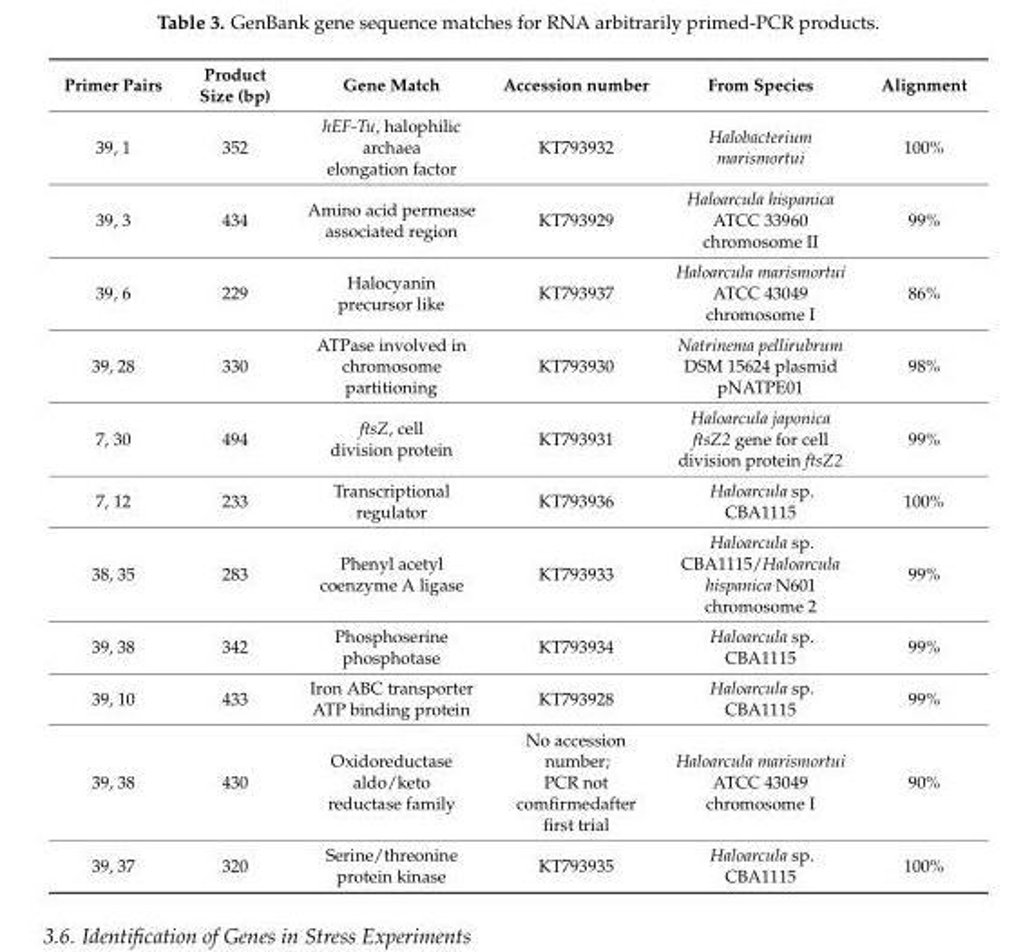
<table><thead><tr><td>Primer Pairs</td><td>Product Size (bp)</td><td>Gene Match</td><td>Accession number</td><td>From Species</td><td>Alignment</td></tr></thead><tbody><tr><td>39, 1</td><td>352</td><td>hEF-Tu, halophilic archaea elongation factor</td><td>KT793932</td><td>Halobacterium marismortui</td><td>100%</td></tr><tr><td>39, 3</td><td>434</td><td>Amino acid permease associated region</td><td>KT793929</td><td>Haloarcula hispanica ATCC 33960 chromosome II</td><td>99%</td></tr><tr><td>39, 6</td><td>229</td><td>Halocyanin precursor like</td><td>KT793937</td><td>Haloarcula marismortui ATCC 43049 chromosome I</td><td>86%</td></tr><tr><td>39, 28</td><td>330</td><td>ATPase involved in chromosome partitioning</td><td>KT793930</td><td>Natrinema pellirubrum DSM 15624 plasmid pNATPE01</td><td>98%</td></tr><tr><td>7, 30</td><td>494</td><td>ftsZ, cell division protein</td><td>KT793931</td><td>Haloarcula japonica ftsZ2 gene for cell division protein ftsZ2</td><td>99%</td></tr><tr><td>7, 12</td><td>233</td><td>Transcriptional regulator</td><td>KT793936</td><td>Haloarcula sp. CBA1115</td><td>100%</td></tr><tr><td>38, 35</td><td>283</td><td>Phenyl acetyl coenzyme A ligase</td><td>KT793933</td><td>Haloarcula sp. CBA1115/Haloarcula hispanica N601 chromosome 2</td><td>99%</td></tr><tr><td>39, 38</td><td>342</td><td>Phosphoserine phosphotase</td><td>KT793934</td><td>Haloarcula sp. CBA1115</td><td>99%</td></tr><tr><td>39, 10</td><td>433</td><td>Iron ABC transporter ATP binding protein</td><td>KT793928</td><td>Haloarcula sp. CBA1115</td><td>99%</td></tr><tr><td>39, 38</td><td>430</td><td>Oxidoreductase aldo/keto reductase family</td><td>No accession number; PCR not comfirmedafter first trial</td><td>Haloarcula marismortui ATCC 43049 chromosome I</td><td>90%</td></tr><tr><td>39, 37</td><td>320</td><td>Serine/threonine protein kinase</td><td>KT793935</td><td>Haloarcula sp. CBA1115</td><td>100%</td></tr></tbody></table>